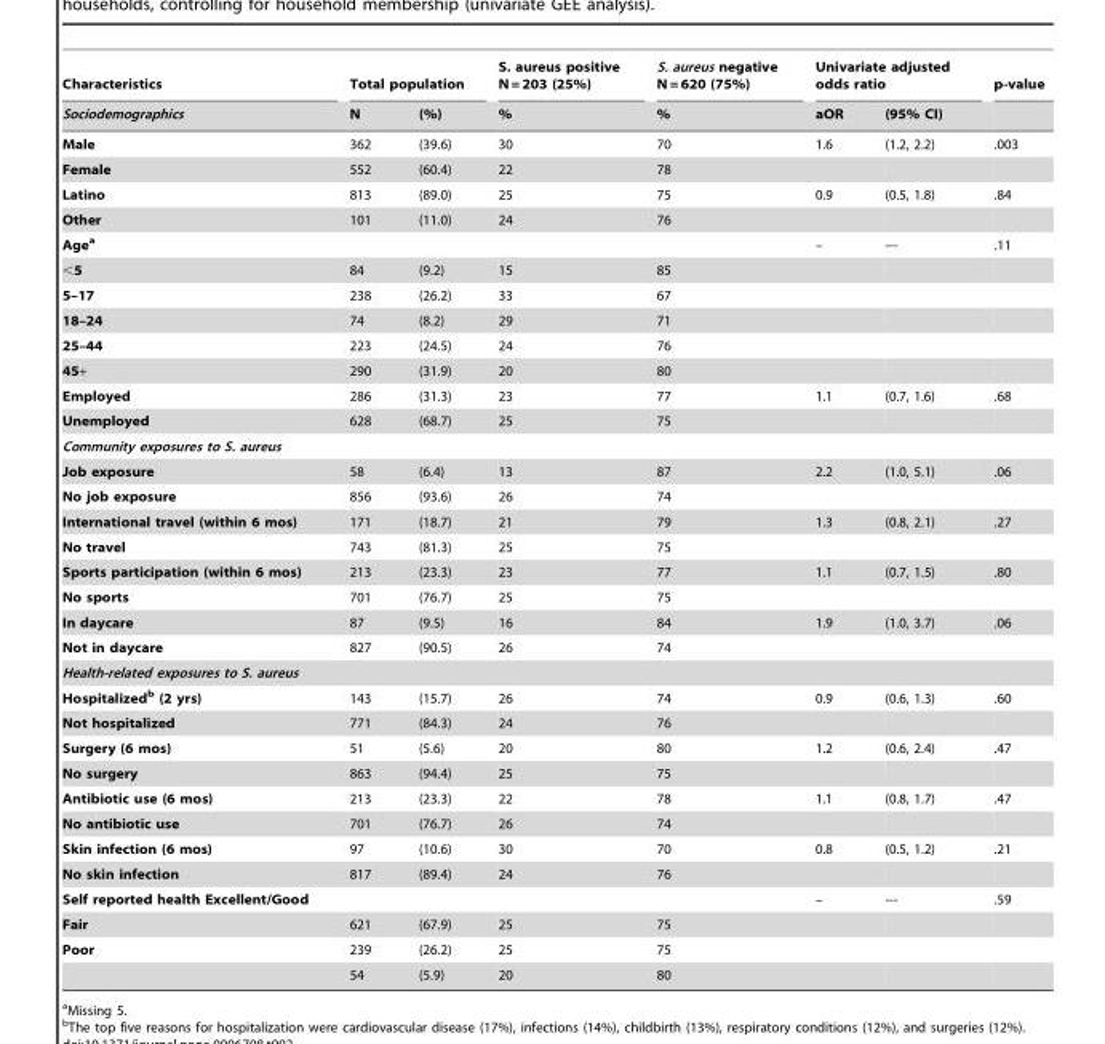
<table><thead><tr><td rowspan="2">Characteristics Sociodemographics</td><td colspan="2">Total population</td><td rowspan="2">S. aureus positive N = 203 (25%) %</td><td rowspan="2">S. aureus negative N = 620 (75%) %</td><td colspan="2">Univariate adjusted odds ratio</td><td rowspan="2">p-value</td></tr><tr><td>N</td><td>(%)</td><td>aOR</td><td>(95% CI)</td></tr></thead><tbody><tr><td>Male</td><td>362</td><td>(39.6)</td><td>30</td><td>70</td><td>1.6</td><td>(1.2, 2.2)</td><td>.003</td></tr><tr><td>Female</td><td>552</td><td>(60.4)</td><td>22</td><td>78</td><td></td><td></td><td></td></tr><tr><td>Latino</td><td>813</td><td>(89.0)</td><td>25</td><td>75</td><td>0.9</td><td>(0.5, 1.8)</td><td>.84</td></tr><tr><td>Other</td><td>101</td><td>(11.0)</td><td>24</td><td>76</td><td></td><td></td><td></td></tr><tr><td>Agea</td><td></td><td></td><td></td><td></td><td>–</td><td>---</td><td>.11</td></tr><tr><td>&lt;5</td><td>84</td><td>(9.2)</td><td>15</td><td>85</td><td></td><td></td><td></td></tr><tr><td>5–17</td><td>238</td><td>(26.2)</td><td>33</td><td>67</td><td></td><td></td><td></td></tr><tr><td>18–24</td><td>74</td><td>(8.2)</td><td>29</td><td>71</td><td></td><td></td><td></td></tr><tr><td>25–44</td><td>223</td><td>(24.5)</td><td>24</td><td>76</td><td></td><td></td><td></td></tr><tr><td>45+</td><td>290</td><td>(31.9)</td><td>20</td><td>80</td><td></td><td></td><td></td></tr><tr><td>Employed</td><td>286</td><td>(31.3)</td><td>23</td><td>77</td><td>1.1</td><td>(0.7, 1.6)</td><td>.68</td></tr><tr><td>Unemployed</td><td>628</td><td>(68.7)</td><td>25</td><td>75</td><td></td><td></td><td></td></tr><tr><td colspan="8">Community exposures to S. aureus</td></tr><tr><td>Job exposure</td><td>58</td><td>(6.4)</td><td>13</td><td>87</td><td>2.2</td><td>(1.0, 5.1)</td><td>.06</td></tr><tr><td>No job exposure</td><td>856</td><td>(93.6)</td><td>26</td><td>74</td><td></td><td></td><td></td></tr><tr><td>International travel (within 6 mos)</td><td>171</td><td>(18.7)</td><td>21</td><td>79</td><td>1.3</td><td>(0.8, 2.1)</td><td>.27</td></tr><tr><td>No travel</td><td>743</td><td>(81.3)</td><td>25</td><td>75</td><td></td><td></td><td></td></tr><tr><td>Sports participation (within 6 mos)</td><td>213</td><td>(23.3)</td><td>23</td><td>77</td><td>1.1</td><td>(0.7, 1.5)</td><td>.80</td></tr><tr><td>No sports</td><td>701</td><td>(76.7)</td><td>25</td><td>75</td><td></td><td></td><td></td></tr><tr><td>In daycare</td><td>87</td><td>(9.5)</td><td>16</td><td>84</td><td>1.9</td><td>(1.0, 3.7)</td><td>.06</td></tr><tr><td>Not in daycare</td><td>827</td><td>(90.5)</td><td>26</td><td>74</td><td></td><td></td><td></td></tr><tr><td colspan="8">Health-related exposures to S. aureus</td></tr><tr><td>Hospitalizedb (2 yrs)</td><td>143</td><td>(15.7)</td><td>26</td><td>74</td><td>0.9</td><td>(0.6, 1.3)</td><td>.60</td></tr><tr><td>Not hospitalized</td><td>771</td><td>(84.3)</td><td>24</td><td>76</td><td></td><td></td><td></td></tr><tr><td>Surgery (6 mos)</td><td>51</td><td>(5.6)</td><td>20</td><td>80</td><td>1.2</td><td>(0.6, 2.4)</td><td>.47</td></tr><tr><td>No surgery</td><td>863</td><td>(94.4)</td><td>25</td><td>75</td><td></td><td></td><td></td></tr><tr><td>Antibiotic use (6 mos)</td><td>213</td><td>(23.3)</td><td>22</td><td>78</td><td>1.1</td><td>(0.8, 1.7)</td><td>.47</td></tr><tr><td>No antibiotic use</td><td>701</td><td>(76.7)</td><td>26</td><td>74</td><td></td><td></td><td></td></tr><tr><td>Skin infection (6 mos)</td><td>97</td><td>(10.6)</td><td>30</td><td>70</td><td>0.8</td><td>(0.5, 1.2)</td><td>.21</td></tr><tr><td>No skin infection</td><td>817</td><td>(89.4)</td><td>24</td><td>76</td><td></td><td></td><td></td></tr><tr><td>Self reported health Excellent/Good</td><td></td><td></td><td></td><td></td><td>–</td><td>---</td><td>.59</td></tr><tr><td>Fair</td><td>621</td><td>(67.9)</td><td>25</td><td>75</td><td></td><td></td><td></td></tr><tr><td rowspan="2">Poor</td><td>239</td><td>(26.2)</td><td>25</td><td>75</td><td></td><td></td><td></td></tr><tr><td>54</td><td>(5.9)</td><td>20</td><td>80</td><td></td><td></td><td></td></tr></tbody></table>